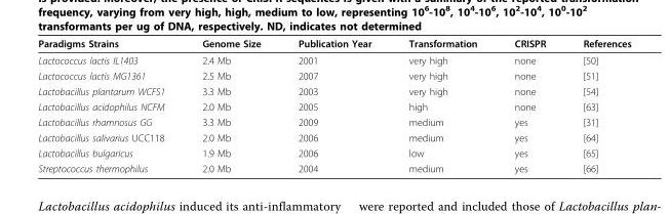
<table><thead><tr><td>Paradigms Strains</td><td>Genome Size</td><td>Publication Year</td><td>Transformation</td><td>CRISPR</td><td>References</td></tr></thead><tbody><tr><td>Lactococcus lactis IL1403</td><td>2.4 Mb</td><td>2001</td><td>very high</td><td>none</td><td>[50]</td></tr><tr><td>Lactococcus lactis MG1361</td><td>2.5 Mb</td><td>2007</td><td>very high</td><td>none</td><td>[51]</td></tr><tr><td>Lactobacillus plantarum WCFS1</td><td>3.3 Mb</td><td>2003</td><td>very high</td><td>none</td><td>[54]</td></tr><tr><td>Lactobacillus acidophilus NCFM</td><td>2.0 Mb</td><td>2005</td><td>high</td><td>none</td><td>[63]</td></tr><tr><td>Lactobacillus rhamnosus GG</td><td>3.3 Mb</td><td>2009</td><td>medium</td><td>yes</td><td>[31]</td></tr><tr><td>Lactobacillus salivarius UCC118</td><td>2.0 Mb</td><td>2006</td><td>medium</td><td>yes</td><td>[64]</td></tr><tr><td>Lactobacillus bulgaricus</td><td>1.9 Mb</td><td>2006</td><td>low</td><td>yes</td><td>[65]</td></tr><tr><td>Streptococcus thermophilus</td><td>2.0 Mb</td><td>2004</td><td>medium</td><td>yes</td><td>[66]</td></tr></tbody></table>